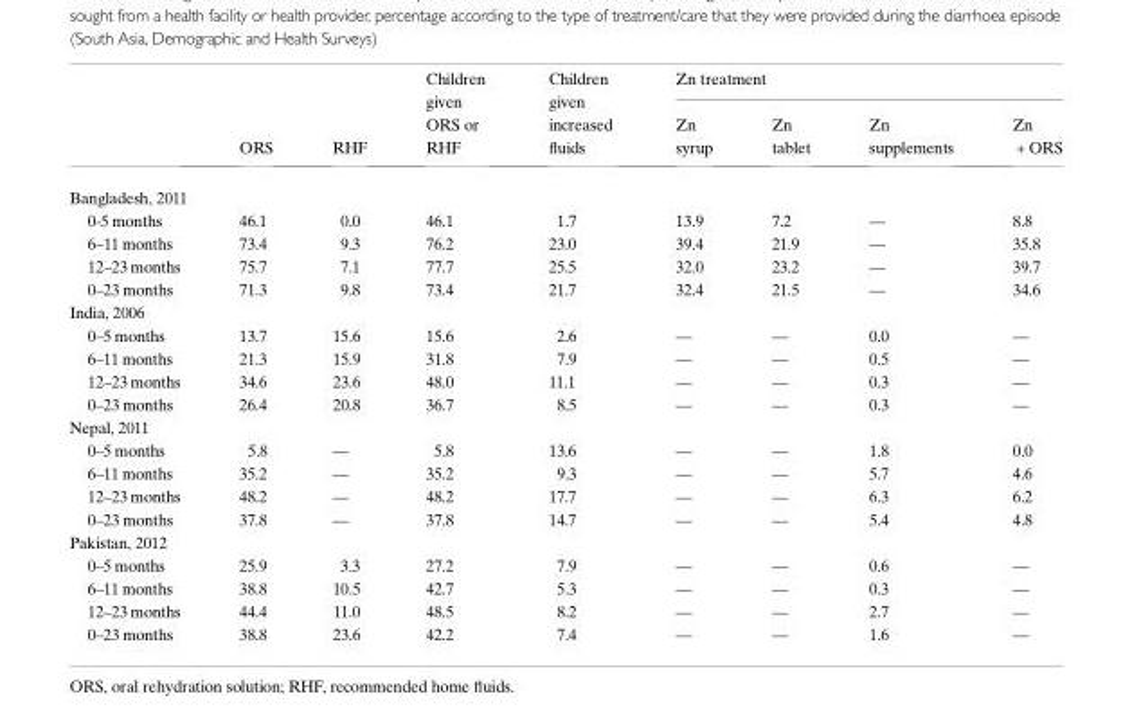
<table><thead><tr><td rowspan="2"></td><td rowspan="2">ORS</td><td rowspan="2">RHF</td><td rowspan="2">Children given ORS or RHF</td><td rowspan="2">Children given increased fluids</td><td colspan="4">Zn treatment</td></tr><tr><td>Zn syrup</td><td>Zn tablet</td><td>Zn supplements</td><td>Zn + ORS</td></tr></thead><tbody><tr><td colspan="9">Bangladesh, 2011</td></tr><tr><td>0-5 months</td><td>46.1</td><td>0.0</td><td>46.1</td><td>1.7</td><td>13.9</td><td>7.2</td><td>—</td><td>8.8</td></tr><tr><td>6–11 months</td><td>73.4</td><td>9.3</td><td>76.2</td><td>23.0</td><td>39.4</td><td>21.9</td><td>—</td><td>35.8</td></tr><tr><td>12–23 months</td><td>75.7</td><td>7.1</td><td>77.7</td><td>25.5</td><td>32.0</td><td>23.2</td><td>—</td><td>39.7</td></tr><tr><td>0–23 months</td><td>71.3</td><td>9.8</td><td>73.4</td><td>21.7</td><td>32.4</td><td>21.5</td><td>—</td><td>34.6</td></tr><tr><td colspan="9">India, 2006</td></tr><tr><td>0–5 months</td><td>13.7</td><td>15.6</td><td>15.6</td><td>2.6</td><td>—</td><td>—</td><td>0.0</td><td>—</td></tr><tr><td>6–11 months</td><td>21.3</td><td>15.9</td><td>31.8</td><td>7.9</td><td>—</td><td>—</td><td>0.5</td><td>—</td></tr><tr><td>12–23 months</td><td>34.6</td><td>23.6</td><td>48.0</td><td>11.1</td><td>—</td><td>—</td><td>0.3</td><td>—</td></tr><tr><td>0–23 months</td><td>26.4</td><td>20.8</td><td>36.7</td><td>8.5</td><td>—</td><td>—</td><td>0.3</td><td>—</td></tr><tr><td colspan="9">Nepal, 2011</td></tr><tr><td>0–5 months</td><td>5.8</td><td>—</td><td>5.8</td><td>13.6</td><td>—</td><td>—</td><td>1.8</td><td>0.0</td></tr><tr><td>6–11 months</td><td>35.2</td><td>—</td><td>35.2</td><td>9.3</td><td>—</td><td>—</td><td>5.7</td><td>4.6</td></tr><tr><td>12–23 months</td><td>48.2</td><td>—</td><td>48.2</td><td>17.7</td><td>—</td><td>—</td><td>6.3</td><td>6.2</td></tr><tr><td>0–23 months</td><td>37.8</td><td>—</td><td>37.8</td><td>14.7</td><td>—</td><td>—</td><td>5.4</td><td>4.8</td></tr><tr><td colspan="9">Pakistan, 2012</td></tr><tr><td>0–5 months</td><td>25.9</td><td>3.3</td><td>27.2</td><td>7.9</td><td>—</td><td>—</td><td>0.6</td><td>—</td></tr><tr><td>6–11 months</td><td>38.8</td><td>10.5</td><td>42.7</td><td>5.3</td><td>—</td><td>—</td><td>0.3</td><td>—</td></tr><tr><td>12–23 months</td><td>44.4</td><td>11.0</td><td>48.5</td><td>8.2</td><td>—</td><td>—</td><td>2.7</td><td>—</td></tr><tr><td>0–23 months</td><td>38.8</td><td>23.6</td><td>42.2</td><td>7.4</td><td>—</td><td>—</td><td>1.6</td><td>—</td></tr></tbody></table>